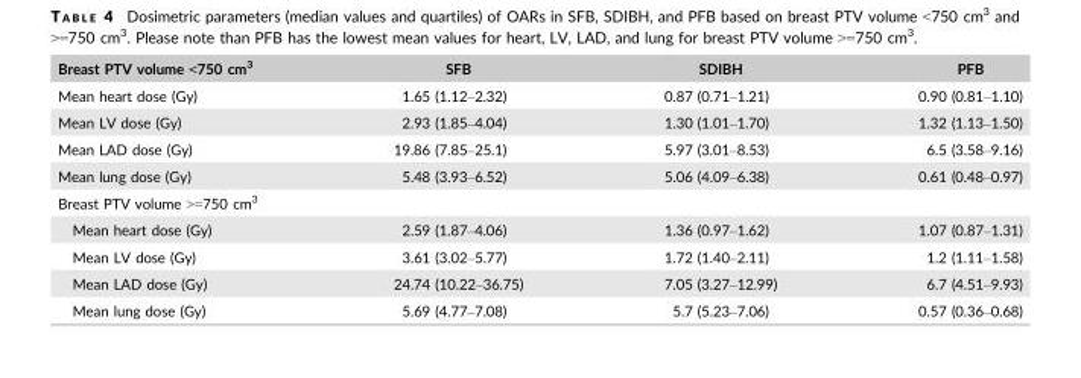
<table><thead><tr><td>Breast PTV volume &lt;750 cm<sup>3</sup></td><td>SFB</td><td>SDIBH</td><td>PFB</td></tr></thead><tbody><tr><td>Mean heart dose (Gy)</td><td>1.65 (1.12–2.32)</td><td>0.87 (0.71–1.21)</td><td>0.90 (0.81–1.10)</td></tr><tr><td>Mean LV dose (Gy)</td><td>2.93 (1.85–4.04)</td><td>1.30 (1.01–1.70)</td><td>1.32 (1.13–1.50)</td></tr><tr><td>Mean LAD dose (Gy)</td><td>19.86 (7.85–25.1)</td><td>5.97 (3.01–8.53)</td><td>6.5 (3.58–9.16)</td></tr><tr><td>Mean lung dose (Gy)</td><td>5.48 (3.93–6.52)</td><td>5.06 (4.09–6.38)</td><td>0.61 (0.48–0.97)</td></tr><tr><td colspan="4">Breast PTV volume &gt;=750 cm<sup>3</sup></td></tr><tr><td>Mean heart dose (Gy)</td><td>2.59 (1.87–4.06)</td><td>1.36 (0.97–1.62)</td><td>1.07 (0.87–1.31)</td></tr><tr><td>Mean LV dose (Gy)</td><td>3.61 (3.02–5.77)</td><td>1.72 (1.40–2.11)</td><td>1.2 (1.11–1.58)</td></tr><tr><td>Mean LAD dose (Gy)</td><td>24.74 (10.22–36.75)</td><td>7.05 (3.27–12.99)</td><td>6.7 (4.51–9.93)</td></tr><tr><td>Mean lung dose (Gy)</td><td>5.69 (4.77–7.08)</td><td>5.7 (5.23–7.06)</td><td>0.57 (0.36–0.68)</td></tr></tbody></table>